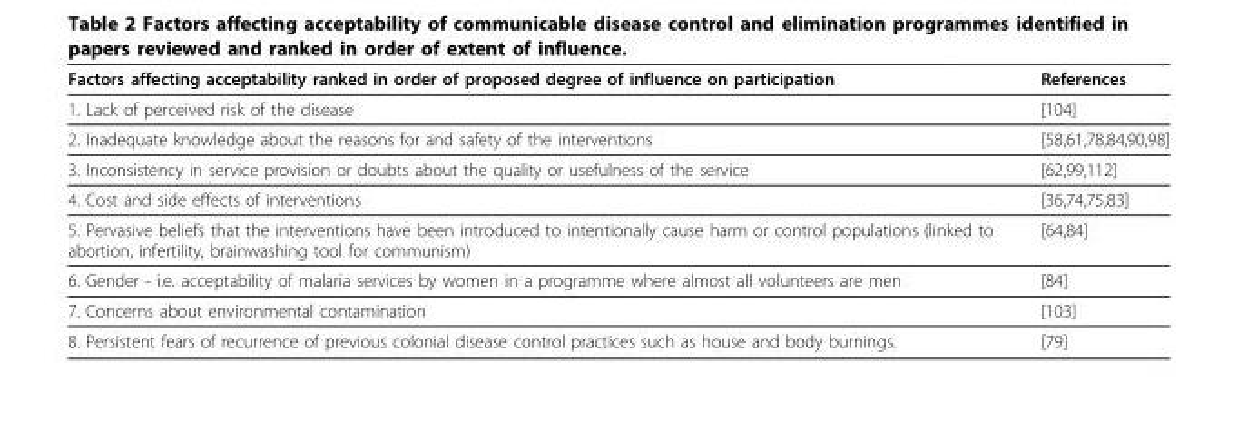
<table><thead><tr><td>Factors affecting acceptability ranked in order of proposed degree of influence on participation</td><td>References</td></tr></thead><tbody><tr><td>1. Lack of perceived risk of the disease</td><td>[104]</td></tr><tr><td>2. Inadequate knowledge about the reasons for and safety of the interventions</td><td>[58,61,78,84,90,98]</td></tr><tr><td>3. Inconsistency in service provision or doubts about the quality or usefulness of the service</td><td>[62,99,112]</td></tr><tr><td>4. Cost and side effects of interventions</td><td>[36,74,75,83]</td></tr><tr><td>5. Pervasive beliefs that the interventions have been introduced to intentionally cause harm or control populations (linked to abortion, infertility, brainwashing tool for communism)</td><td>[64,84]</td></tr><tr><td>6. Gender - i.e. acceptability of malaria services by women in a programme where almost all volunteers are men</td><td>[84]</td></tr><tr><td>7. Concerns about environmental contamination</td><td>[103]</td></tr><tr><td>8. Persistent fears of recurrence of previous colonial disease control practices such as house and body burnings.</td><td>[79]</td></tr></tbody></table>